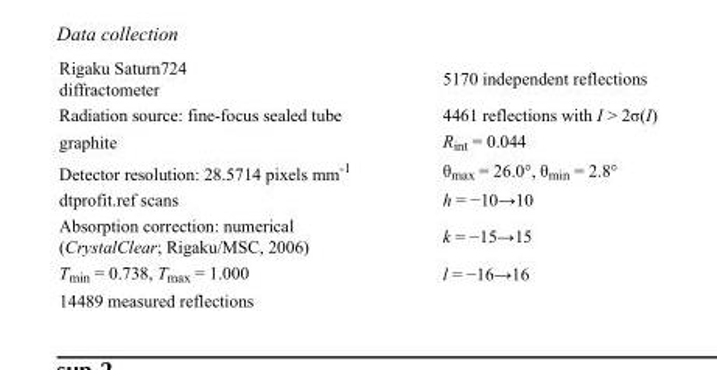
<table><tbody><tr><td>Rigaku Saturn724 diffractometer</td><td>5170 independent reflections</td></tr><tr><td>Radiation source: fine-focus sealed tube</td><td>4461 reflections with I &gt; 2σ(I)</td></tr><tr><td>graphite</td><td>R<sub>int</sub> = 0.044</td></tr><tr><td>Detector resolution: 28.5714 pixels mm<sup>-1</sup></td><td>θ<sub>max</sub> = 26.0°, θ<sub>min</sub> = 2.8°</td></tr><tr><td>dtprofit.ref scans</td><td>h = −10→10</td></tr><tr><td>Absorption correction: numerical (CrystalClear; Rigaku/MSC, 2006)</td><td>k = −15→15</td></tr><tr><td>T<sub>min</sub> = 0.738, T<sub>max</sub> = 1.000</td><td>l = −16→16</td></tr><tr><td>14489 measured reflections</td><td></td></tr></tbody></table>